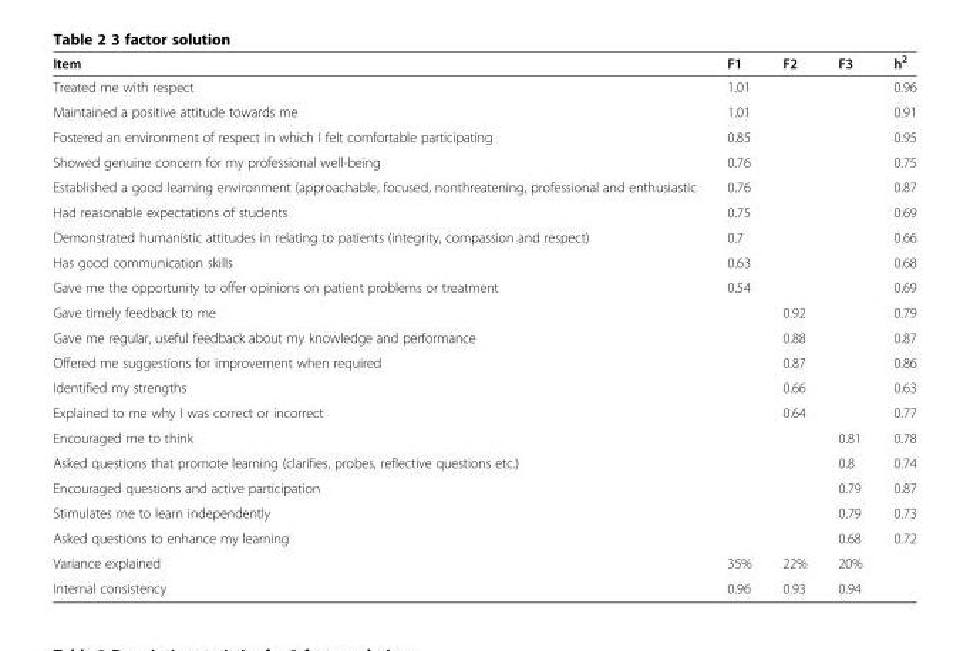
<table><thead><tr><td>Item</td><td>F1</td><td>F2</td><td>F3</td><td>h<sup>2</sup></td></tr></thead><tbody><tr><td>Treated me with respect</td><td>1.01</td><td></td><td></td><td>0.96</td></tr><tr><td>Maintained a positive attitude towards me</td><td>1.01</td><td></td><td></td><td>0.91</td></tr><tr><td>Fostered an environment of respect in which I felt comfortable participating</td><td>0.85</td><td></td><td></td><td>0.95</td></tr><tr><td>Showed genuine concern for my professional well-being</td><td>0.76</td><td></td><td></td><td>0.75</td></tr><tr><td>Established a good learning environment (approachable, focused, nonthreatening, professional and enthusiastic</td><td>0.76</td><td></td><td></td><td>0.87</td></tr><tr><td>Had reasonable expectations of students</td><td>0.75</td><td></td><td></td><td>0.69</td></tr><tr><td>Demonstrated humanistic attitudes in relating to patients (integrity, compassion and respect)</td><td>0.7</td><td></td><td></td><td>0.66</td></tr><tr><td>Has good communication skills</td><td>0.63</td><td></td><td></td><td>0.68</td></tr><tr><td>Gave me the opportunity to offer opinions on patient problems or treatment</td><td>0.54</td><td></td><td></td><td>0.69</td></tr><tr><td>Gave timely feedback to me</td><td></td><td>0.92</td><td></td><td>0.79</td></tr><tr><td>Gave me regular, useful feedback about my knowledge and performance</td><td></td><td>0.88</td><td></td><td>0.87</td></tr><tr><td>Offered me suggestions for improvement when required</td><td></td><td>0.87</td><td></td><td>0.86</td></tr><tr><td>Identified my strengths</td><td></td><td>0.66</td><td></td><td>0.63</td></tr><tr><td>Explained to me why I was correct or incorrect</td><td></td><td>0.64</td><td></td><td>0.77</td></tr><tr><td>Encouraged me to think</td><td></td><td></td><td>0.81</td><td>0.78</td></tr><tr><td>Asked questions that promote learning (clarifies, probes, reflective questions etc.)</td><td></td><td></td><td>0.8</td><td>0.74</td></tr><tr><td>Encouraged questions and active participation</td><td></td><td></td><td>0.79</td><td>0.87</td></tr><tr><td>Stimulates me to learn independently</td><td></td><td></td><td>0.79</td><td>0.73</td></tr><tr><td>Asked questions to enhance my learning</td><td></td><td></td><td>0.68</td><td>0.72</td></tr><tr><td>Variance explained</td><td>35%</td><td>22%</td><td>20%</td><td></td></tr><tr><td>Internal consistency</td><td>0.96</td><td>0.93</td><td>0.94</td><td></td></tr></tbody></table>